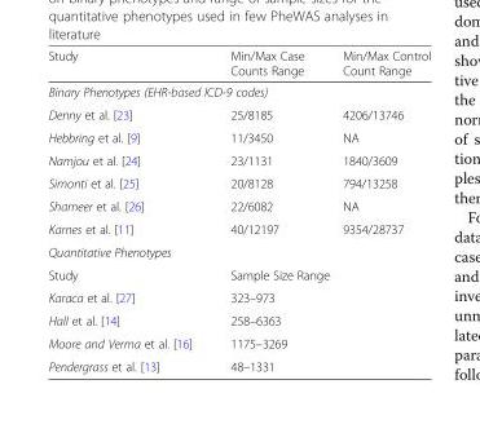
<table><thead><tr><td>Study</td><td>Min/Max Case Counts Range</td><td>Min/Max Control Count Range</td></tr></thead><tbody><tr><td colspan="3">Binary Phenotypes (EHR-based ICD-9 codes)</td></tr><tr><td>Denny et al. [23]</td><td>25/8185</td><td>4206/13746</td></tr><tr><td>Hebbring et al. [9]</td><td>11/3450</td><td>NA</td></tr><tr><td>Namjou et al. [24]</td><td>23/1131</td><td>1840/3609</td></tr><tr><td>Simonti et al. [25]</td><td>20/8128</td><td>794/13258</td></tr><tr><td>Shameer et al. [26]</td><td>22/6082</td><td>NA</td></tr><tr><td>Karnes et al. [11]</td><td>40/12197</td><td>9354/28737</td></tr><tr><td colspan="3">Quantitative Phenotypes</td></tr><tr><td>Study</td><td colspan="2">Sample Size Range</td></tr><tr><td>Karaca et al. [27]</td><td colspan="2">323–973</td></tr><tr><td>Hall et al. [14]</td><td colspan="2">258–6363</td></tr><tr><td>Moore and Verma et al. [16]</td><td colspan="2">1175–3269</td></tr><tr><td>Pendergrass et al. [13]</td><td colspan="2">48–1331</td></tr></tbody></table>